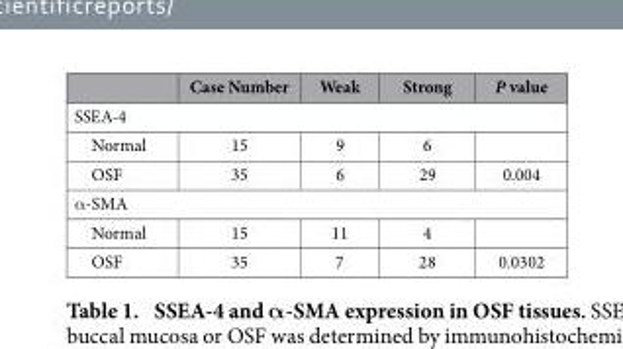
<table><thead><tr><td></td><td>Case Number</td><td>Weak</td><td>Strong</td><td>P value</td></tr></thead><tbody><tr><td colspan="5">SSEA-4</td></tr><tr><td>Normal</td><td>15</td><td>9</td><td>6</td><td></td></tr><tr><td>OSF</td><td>35</td><td>6</td><td>29</td><td>0.004</td></tr><tr><td colspan="5">α -SMA</td></tr><tr><td>Normal</td><td>15</td><td>11</td><td>4</td><td></td></tr><tr><td>OSF</td><td>35</td><td>7</td><td>28</td><td>0.0302</td></tr></tbody></table>